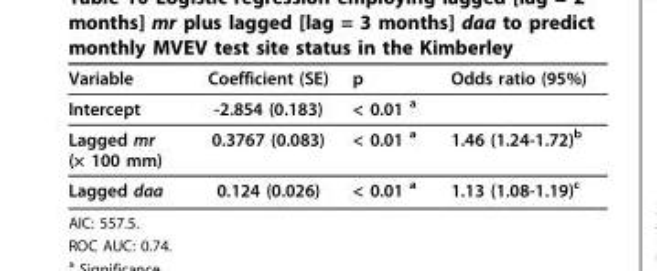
<table><thead><tr><td>Variable</td><td>Coefficient (SE)</td><td>p</td><td>Odds ratio (95%)</td></tr></thead><tbody><tr><td>Intercept</td><td>-2.854 (0.183)</td><td>&lt; 0.01 <sup>a</sup></td><td></td></tr><tr><td>Lagged mr (× 100 mm)</td><td>0.3767 (0.083)</td><td>&lt; 0.01 <sup>a</sup></td><td>1.46 (1.24-1.72)<sup>b</sup></td></tr><tr><td>Lagged daa</td><td>0.124 (0.026)</td><td>&lt; 0.01 <sup>a</sup></td><td>1.13 (1.08-1.19)<sup>c</sup></td></tr></tbody></table>